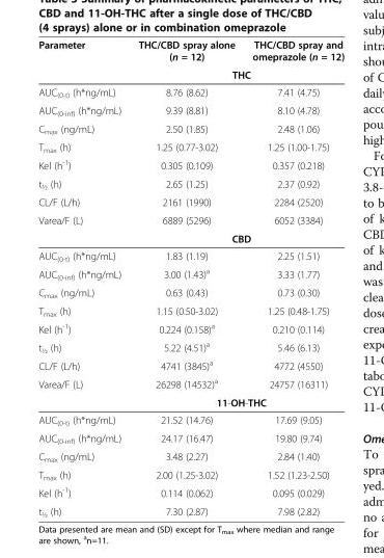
<table><thead><tr><td>Parameter</td><td>THC/CBD spray alone (n = 12)</td><td>THC/CBD spray and omeprazole (n = 12)</td></tr></thead><tbody><tr><td></td><td colspan="2">THC</td></tr><tr><td>AUC<sub>(0-t)</sub> (h*ng/mL)</td><td>8.76 (8.62)</td><td>7.41 (4.75)</td></tr><tr><td>AUC<sub>(0-inf)</sub> (h*ng/mL)</td><td>9.39 (8.81)</td><td>8.10 (4.78)</td></tr><tr><td>C<sub>max</sub> (ng/mL)</td><td>2.50 (1.85)</td><td>2.48 (1.06)</td></tr><tr><td>T<sub>max</sub> (h)</td><td>1.25 (0.77-3.02)</td><td>1.25 (1.00-1.75)</td></tr><tr><td>Kel (h<sup>-1</sup>)</td><td>0.305 (0.109)</td><td>0.357 (0.218)</td></tr><tr><td>t<sub>½</sub> (h)</td><td>2.65 (1.25)</td><td>2.37 (0.92)</td></tr><tr><td>CL/F (L/h)</td><td>2161 (1990)</td><td>2284 (2520)</td></tr><tr><td rowspan="2">Varea/F (L)</td><td>6889 (5296)</td><td>6052 (3384)</td></tr><tr><td colspan="2">CBD</td></tr><tr><td>AUC<sub>(0-t)</sub> (h*ng/mL)</td><td>1.83 (1.19)</td><td>2.25 (1.51)</td></tr><tr><td>AUC<sub>(0-inf)</sub> (h*ng/mL)</td><td>3.00 (1.43)<sup>a</sup></td><td>3.33 (1.77)</td></tr><tr><td>C<sub>max</sub> (ng/mL)</td><td>0.63 (0.43)</td><td>0.73 (0.30)</td></tr><tr><td>T<sub>max</sub> (h)</td><td>1.15 (0.50-3.02)</td><td>1.25 (0.48-1.75)</td></tr><tr><td>Kel (h<sup>-1</sup>)</td><td>0.224 (0.158)<sup>a</sup></td><td>0.210 (0.114)</td></tr><tr><td>t<sub>½</sub> (h)</td><td>5.22 (4.51)<sup>a</sup></td><td>5.46 (6.13)</td></tr><tr><td>CL/F (L/h)</td><td>4741 (3845)<sup>a</sup></td><td>4772 (4550)</td></tr><tr><td rowspan="2">Varea/F (L)</td><td>26298 (14532)<sup>a</sup></td><td>24757 (16311)</td></tr><tr><td colspan="2">11-OH-THC</td></tr><tr><td>AUC<sub>(0-t)</sub> (h*ng/mL)</td><td>21.52 (14.76)</td><td>17.69 (9.05)</td></tr><tr><td>AUC<sub>(0-inf)</sub> (h*ng/mL)</td><td>24.17 (16.47)</td><td>19.80 (9.74)</td></tr><tr><td>C<sub>max</sub> (ng/mL)</td><td>3.48 (2.27)</td><td>2.84 (1.40)</td></tr><tr><td>T<sub>max</sub> (h)</td><td>2.00 (1.25-3.02)</td><td>1.52 (1.23-2.50)</td></tr><tr><td>Kel (h<sup>-1</sup>)</td><td>0.114 (0.062)</td><td>0.095 (0.029)</td></tr><tr><td>t<sub>½</sub> (h)</td><td>7.30 (2.87)</td><td>7.98 (2.82)</td></tr></tbody></table>